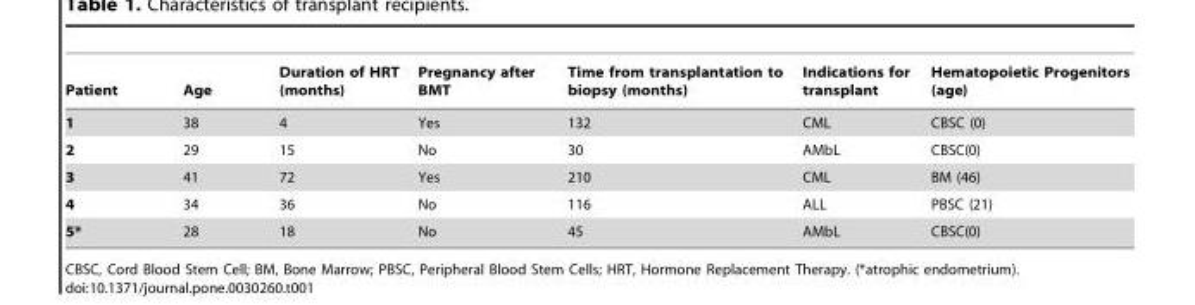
<table><thead><tr><td>Patient</td><td>Age</td><td>Duration of HRT (months)</td><td>Pregnancy after BMT</td><td>Time from transplantation to biopsy (months)</td><td>Indications for transplant</td><td>Hematopoietic Progenitors (age)</td></tr></thead><tbody><tr><td>1</td><td>38</td><td>4</td><td>Yes</td><td>132</td><td>CML</td><td>CBSC (0)</td></tr><tr><td>2</td><td>29</td><td>15</td><td>No</td><td>30</td><td>AMbL</td><td>CBSC(0)</td></tr><tr><td>3</td><td>41</td><td>72</td><td>Yes</td><td>210</td><td>CML</td><td>BM (46)</td></tr><tr><td>4</td><td>34</td><td>36</td><td>No</td><td>116</td><td>ALL</td><td>PBSC (21)</td></tr><tr><td>5*</td><td>28</td><td>18</td><td>No</td><td>45</td><td>AMbL</td><td>CBSC(0)</td></tr></tbody></table>